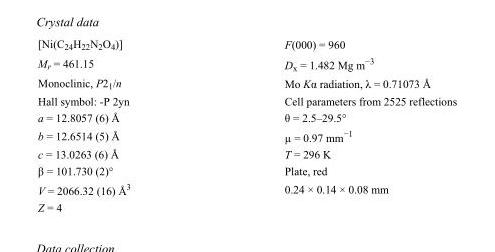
<table><tbody><tr><td>[Ni(C<sub>24</sub>H<sub>22</sub>N<sub>2</sub>O<sub>4</sub>)]</td><td>F(000) = 960</td></tr><tr><td>M<sub>r</sub> = 461.15</td><td>D<sub>x</sub> = 1.482 Mg m<sup>−3</sup></td></tr><tr><td>Monoclinic, P2<sub>1</sub>/n</td><td>Mo Kα radiation, λ = 0.71073 Å</td></tr><tr><td>Hall symbol: -P 2yn</td><td>Cell parameters from 2525 reflections</td></tr><tr><td>a = 12.8057 (6) Å</td><td>θ = 2.5–29.5°</td></tr><tr><td>b = 12.6514 (5) Å</td><td>µ = 0.97 mm<sup>−1</sup></td></tr><tr><td>c = 13.0263 (6) Å</td><td>T = 296 K</td></tr><tr><td>β = 101.730 (2)°</td><td>Plate, red</td></tr><tr><td>V = 2066.32 (16) Å<sup>3</sup></td><td>0.24 × 0.14 × 0.08 mm</td></tr><tr><td>Z = 4</td><td></td></tr></tbody></table>